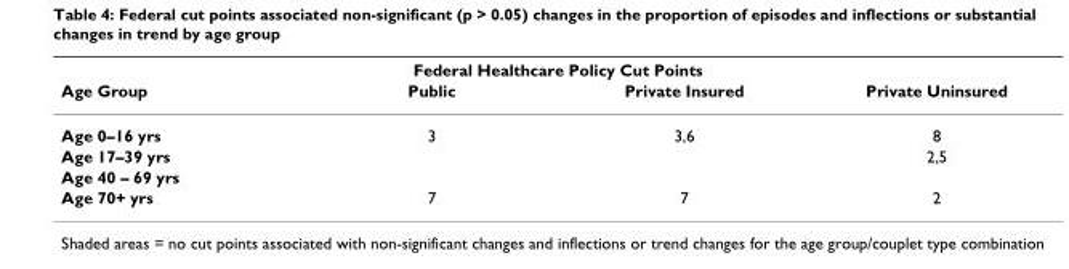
<table><thead><tr><td colspan="4">Federal Healthcare Policy Cut Points</td></tr><tr><td>Age Group</td><td>Public</td><td>Private Insured</td><td>Private Uninsured</td></tr></thead><tbody><tr><td>Age 0–16 yrs</td><td>3</td><td>3,6</td><td>8</td></tr><tr><td>Age 17–39 yrs</td><td></td><td></td><td>2,5</td></tr><tr><td colspan="4">Age 40 – 69 yrs</td></tr><tr><td>Age 70+ yrs</td><td>7</td><td>7</td><td>2</td></tr></tbody></table>